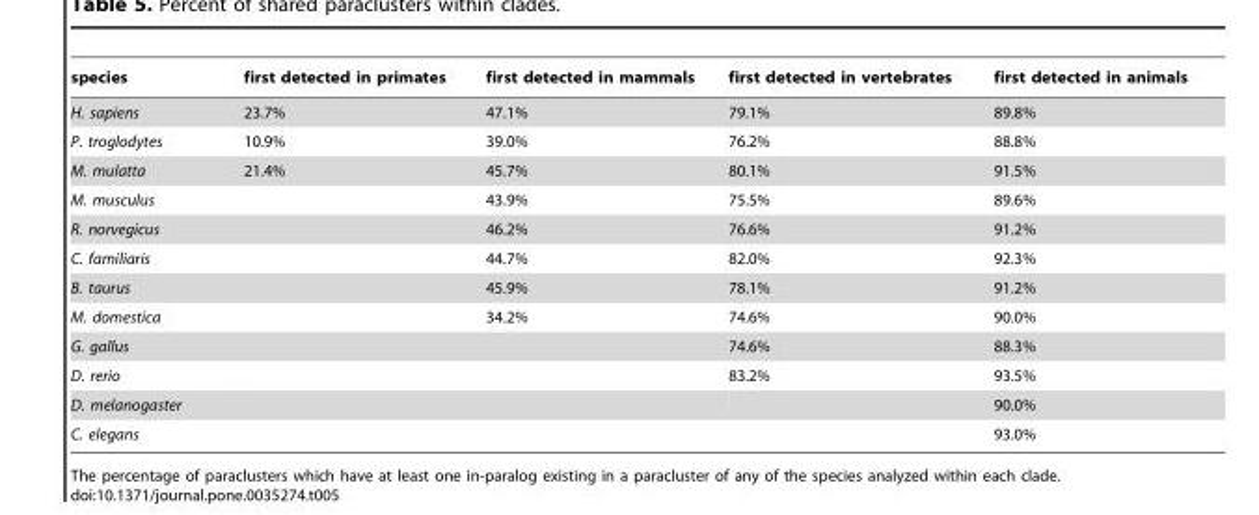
<table><thead><tr><td>species</td><td>first detected in primates</td><td>first detected in mammals</td><td>first detected in vertebrates</td><td>first detected in animals</td></tr></thead><tbody><tr><td>H. sapiens</td><td>23.7%</td><td>47.1%</td><td>79.1%</td><td>89.8%</td></tr><tr><td>P. troglodytes</td><td>10.9%</td><td>39.0%</td><td>76.2%</td><td>88.8%</td></tr><tr><td>M. mulatta</td><td>21.4%</td><td>45.7%</td><td>80.1%</td><td>91.5%</td></tr><tr><td>M. musculus</td><td></td><td>43.9%</td><td>75.5%</td><td>89.6%</td></tr><tr><td>R. norvegicus</td><td></td><td>46.2%</td><td>76.6%</td><td>91.2%</td></tr><tr><td>C. familiaris</td><td></td><td>44.7%</td><td>82.0%</td><td>92.3%</td></tr><tr><td>B. taurus</td><td></td><td>45.9%</td><td>78.1%</td><td>91.2%</td></tr><tr><td>M. domestica</td><td></td><td>34.2%</td><td>74.6%</td><td>90.0%</td></tr><tr><td>G. gallus</td><td></td><td></td><td>74.6%</td><td>88.3%</td></tr><tr><td>D. rerio</td><td></td><td></td><td>83.2%</td><td>93.5%</td></tr><tr><td>D. melanogaster</td><td></td><td></td><td></td><td>90.0%</td></tr><tr><td>C. elegans</td><td></td><td></td><td></td><td>93.0%</td></tr></tbody></table>